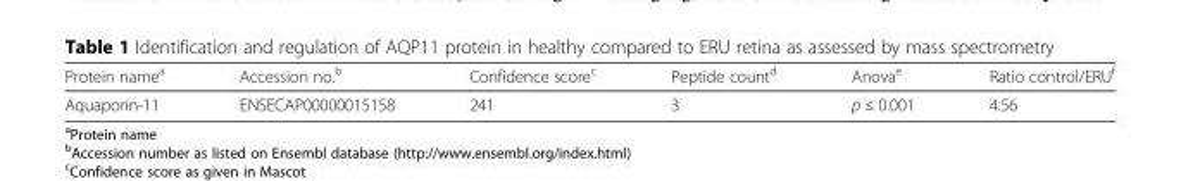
<table><thead><tr><td>Protein name<sup>a</sup></td><td>Accession no.<sup>b</sup></td><td>Confidence score<sup>c</sup></td><td>Peptide count<sup>d</sup></td><td>Anova<sup>e</sup></td><td>Ratio control/ERU<sup>f</sup></td></tr></thead><tbody><tr><td>Aquaporin-11</td><td>ENSECAP00000015158</td><td>241</td><td>3</td><td>p ≤ 0.001</td><td>4.56</td></tr></tbody></table>